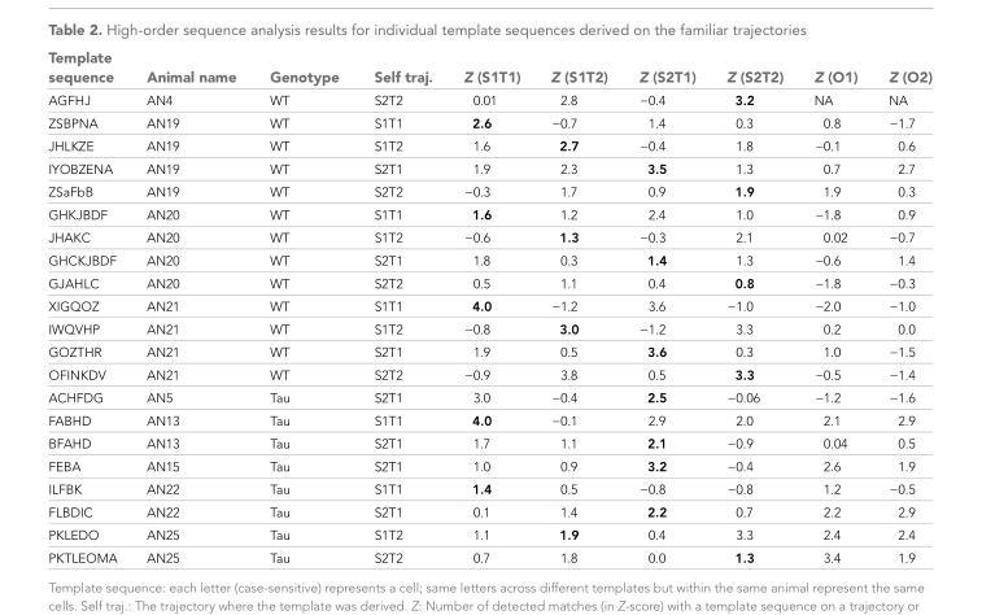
<table><thead><tr><td>Template sequence</td><td>Animal name</td><td>Genotype</td><td>Self traj.</td><td>Z (S1T1)</td><td>Z (S1T2)</td><td>Z (S2T1)</td><td>Z (S2T2)</td><td>Z (O1)</td><td>Z (O2)</td></tr></thead><tbody><tr><td>AGFHJ</td><td>AN4</td><td>WT</td><td>S2T2</td><td>0.01</td><td>2.8</td><td>−0.4</td><td>3.2</td><td>NA</td><td>NA</td></tr><tr><td>ZSBPNA</td><td>AN19</td><td>WT</td><td>S1T1</td><td>2.6</td><td>−0.7</td><td>1.4</td><td>0.3</td><td>0.8</td><td>−1.7</td></tr><tr><td>JHLKZE</td><td>AN19</td><td>WT</td><td>S1T2</td><td>1.6</td><td>2.7</td><td>−0.4</td><td>1.8</td><td>−0.1</td><td>0.6</td></tr><tr><td>IYOBZENA</td><td>AN19</td><td>WT</td><td>S2T1</td><td>1.9</td><td>2.3</td><td>3.5</td><td>1.3</td><td>0.7</td><td>2.7</td></tr><tr><td>ZSaFbB</td><td>AN19</td><td>WT</td><td>S2T2</td><td>−0.3</td><td>1.7</td><td>0.9</td><td>1.9</td><td>1.9</td><td>0.3</td></tr><tr><td>GHKJBDF</td><td>AN20</td><td>WT</td><td>S1T1</td><td>1.6</td><td>1.2</td><td>2.4</td><td>1.0</td><td>−1.8</td><td>0.9</td></tr><tr><td>JHAKC</td><td>AN20</td><td>WT</td><td>S1T2</td><td>−0.6</td><td>1.3</td><td>−0.3</td><td>2.1</td><td>0.02</td><td>−0.7</td></tr><tr><td>GHCKJBDF</td><td>AN20</td><td>WT</td><td>S2T1</td><td>1.8</td><td>0.3</td><td>1.4</td><td>1.3</td><td>−0.6</td><td>1.4</td></tr><tr><td>GJAHLC</td><td>AN20</td><td>WT</td><td>S2T2</td><td>0.5</td><td>1.1</td><td>0.4</td><td>0.8</td><td>−1.8</td><td>−0.3</td></tr><tr><td>XIGQOZ</td><td>AN21</td><td>WT</td><td>S1T1</td><td>4.0</td><td>−1.2</td><td>3.6</td><td>−1.0</td><td>−2.0</td><td>−1.0</td></tr><tr><td>IWQVHP</td><td>AN21</td><td>WT</td><td>S1T2</td><td>−0.8</td><td>3.0</td><td>−1.2</td><td>3.3</td><td>0.2</td><td>0.0</td></tr><tr><td>GOZTHR</td><td>AN21</td><td>WT</td><td>S2T1</td><td>1.9</td><td>0.5</td><td>3.6</td><td>0.3</td><td>1.0</td><td>−1.5</td></tr><tr><td>OFINKDV</td><td>AN21</td><td>WT</td><td>S2T2</td><td>−0.9</td><td>3.8</td><td>0.5</td><td>3.3</td><td>−0.5</td><td>−1.4</td></tr><tr><td>ACHFDG</td><td>AN5</td><td>Tau</td><td>S2T1</td><td>3.0</td><td>−0.4</td><td>2.5</td><td>−0.06</td><td>−1.2</td><td>−1.6</td></tr><tr><td>FABHD</td><td>AN13</td><td>Tau</td><td>S1T1</td><td>4.0</td><td>−0.1</td><td>2.9</td><td>2.0</td><td>2.1</td><td>2.9</td></tr><tr><td>BFAHD</td><td>AN13</td><td>Tau</td><td>S2T1</td><td>1.7</td><td>1.1</td><td>2.1</td><td>−0.9</td><td>0.04</td><td>0.5</td></tr><tr><td>FEBA</td><td>AN15</td><td>Tau</td><td>S2T1</td><td>1.0</td><td>0.9</td><td>3.2</td><td>−0.4</td><td>2.6</td><td>1.9</td></tr><tr><td>ILFBK</td><td>AN22</td><td>Tau</td><td>S1T1</td><td>1.4</td><td>0.5</td><td>−0.8</td><td>−0.8</td><td>1.2</td><td>−0.5</td></tr><tr><td>FLBDIC</td><td>AN22</td><td>Tau</td><td>S2T1</td><td>0.1</td><td>1.4</td><td>2.2</td><td>0.7</td><td>2.2</td><td>2.9</td></tr><tr><td>PKLEDO</td><td>AN25</td><td>Tau</td><td>S1T2</td><td>1.1</td><td>1.9</td><td>0.4</td><td>3.3</td><td>2.4</td><td>2.4</td></tr><tr><td>PKTLEOMA</td><td>AN25</td><td>Tau</td><td>S2T2</td><td>0.7</td><td>1.8</td><td>0.0</td><td>1.3</td><td>3.4</td><td>1.9</td></tr></tbody></table>